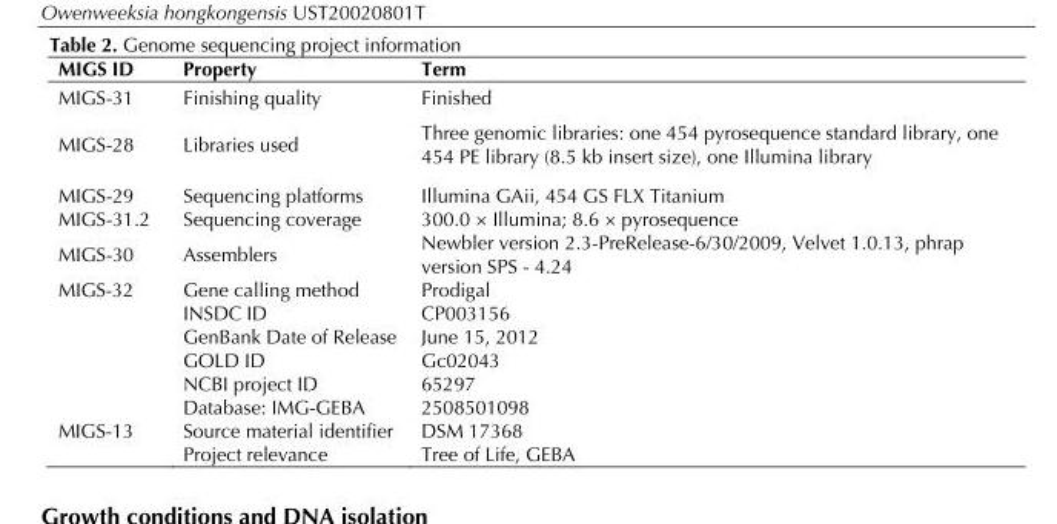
<table><thead><tr><td>MIGS ID</td><td>Property</td><td>Term</td></tr></thead><tbody><tr><td>MIGS-31</td><td>Finishing quality</td><td>Finished</td></tr><tr><td>MIGS-28</td><td>Libraries used</td><td>Three genomic libraries: one 454 pyrosequence standard library, one 454 PE library (8.5 kb insert size), one Illumina library</td></tr><tr><td>MIGS-29</td><td>Sequencing platforms</td><td>Illumina GAii, 454 GS FLX Titanium</td></tr><tr><td>MIGS-31.2</td><td>Sequencing coverage</td><td>300.0 × Illumina; 8.6 × pyrosequence</td></tr><tr><td>MIGS-30</td><td>Assemblers</td><td>Newbler version 2.3-PreRelease-6/30/2009, Velvet 1.0.13, phrap version SPS - 4.24</td></tr><tr><td rowspan="6">MIGS-32</td><td>Gene calling method</td><td>Prodigal</td></tr><tr><td>INSDC ID</td><td>CP003156</td></tr><tr><td>GenBank Date of Release</td><td>June 15, 2012</td></tr><tr><td>GOLD ID</td><td>Gc02043</td></tr><tr><td>NCBI project ID</td><td>65297</td></tr><tr><td>Database: IMG-GEBA</td><td>2508501098</td></tr><tr><td rowspan="2">MIGS-13</td><td>Source material identifier</td><td>DSM 17368</td></tr><tr><td>Project relevance</td><td>Tree of Life, GEBA</td></tr></tbody></table>